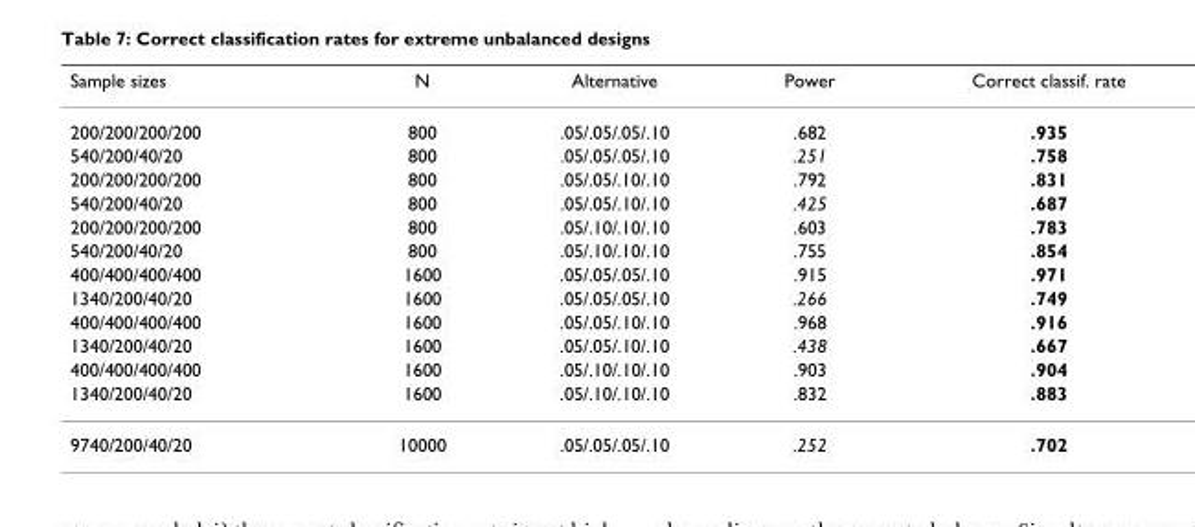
<table><thead><tr><td>Sample sizes</td><td>N</td><td>Alternative</td><td>Power</td><td>Correct classif. rate</td></tr></thead><tbody><tr><td>200/200/200/200</td><td>800</td><td>.05/.05/.05/.10</td><td>.682</td><td>.935</td></tr><tr><td>540/200/40/20</td><td>800</td><td>.05/.05/.05/.10</td><td>.251</td><td>.758</td></tr><tr><td>200/200/200/200</td><td>800</td><td>.05/.05/.10/.10</td><td>.792</td><td>.831</td></tr><tr><td>540/200/40/20</td><td>800</td><td>.05/.05/.10/.10</td><td>.425</td><td>.687</td></tr><tr><td>200/200/200/200</td><td>800</td><td>.05/.10/.10/.10</td><td>.603</td><td>.783</td></tr><tr><td>540/200/40/20</td><td>800</td><td>.05/.10/.10/.10</td><td>.755</td><td>.854</td></tr><tr><td>400/400/400/400</td><td>1600</td><td>.05/.05/.05/.10</td><td>.915</td><td>.971</td></tr><tr><td>1340/200/40/20</td><td>1600</td><td>.05/.05/.05/.10</td><td>.266</td><td>.749</td></tr><tr><td>400/400/400/400</td><td>1600</td><td>.05/.05/.10/.10</td><td>.968</td><td>.916</td></tr><tr><td>1340/200/40/20</td><td>1600</td><td>.05/.05/.10/.10</td><td>.438</td><td>.667</td></tr><tr><td>400/400/400/400</td><td>1600</td><td>.05/.10/.10/.10</td><td>.903</td><td>.904</td></tr><tr><td>1340/200/40/20</td><td>1600</td><td>.05/.10/.10/.10</td><td>.832</td><td>.883</td></tr><tr><td>9740/200/40/20</td><td>10000</td><td>.05/.05/.05/.10</td><td>.252</td><td>.702</td></tr></tbody></table>